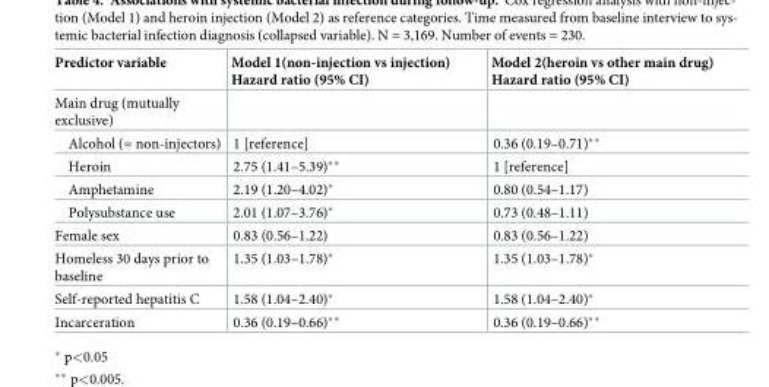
<table><thead><tr><td>Predictor variable</td><td>Model 1(non-injection vs injection) Hazard ratio (95% CI)</td><td>Model 2(heroin vs other main drug) Hazard ratio (95% CI)</td></tr></thead><tbody><tr><td colspan="3">Main drug (mutually exclusive)</td></tr><tr><td>Alcohol (= non-injectors)</td><td>1 [reference]</td><td>0.36 (0.19–0.71)**</td></tr><tr><td>Heroin</td><td>2.75 (1.41–5.39)**</td><td>1 [reference]</td></tr><tr><td>Amphetamine</td><td>2.19 (1.20–4.02)*</td><td>0.80 (0.54–1.17)</td></tr><tr><td>Polysubstance use</td><td>2.01 (1.07–3.76)*</td><td>0.73 (0.48–1.11)</td></tr><tr><td>Female sex</td><td>0.83 (0.56–1.22)</td><td>0.83 (0.56–1.22)</td></tr><tr><td>Homeless 30 days prior to baseline</td><td>1.35 (1.03–1.78)*</td><td>1.35 (1.03–1.78)*</td></tr><tr><td>Self-reported hepatitis C</td><td>1.58 (1.04–2.40)*</td><td>1.58 (1.04–2.40)*</td></tr><tr><td>Incarceration</td><td>0.36 (0.19–0.66)**</td><td>0.36 (0.19–0.66)**</td></tr></tbody></table>